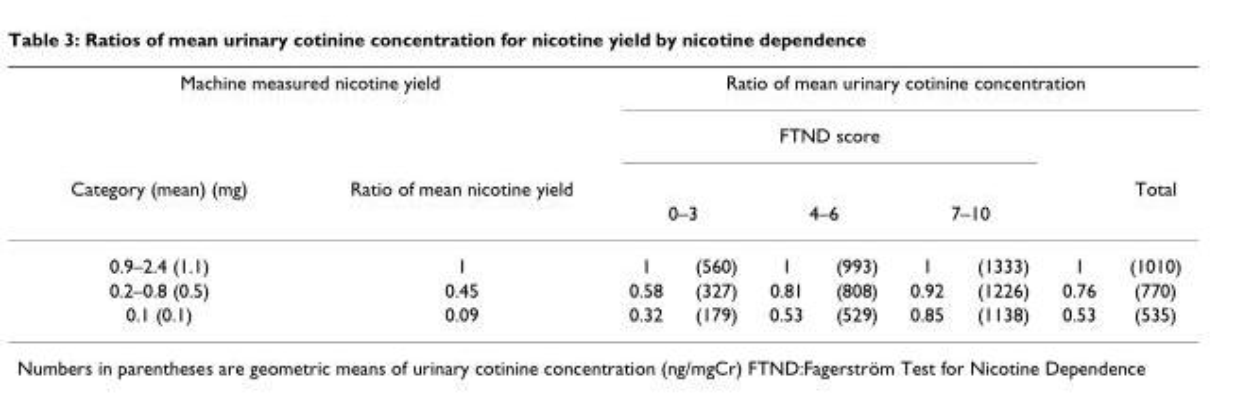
<table><thead><tr><td colspan="2">Machine measured nicotine yield</td><td colspan="8">Ratio of mean urinary cotinine concentration</td></tr><tr><td rowspan="3">Category (mean) (mg)</td><td rowspan="3">Ratio of mean nicotine yield</td><td colspan="6">FTND score</td><td rowspan="3"></td><td rowspan="3">Total</td></tr><tr><td></td><td></td><td></td><td></td><td></td><td></td></tr><tr><td colspan="2">0–3</td><td colspan="2">4–6</td><td colspan="2">7–10</td></tr></thead><tbody><tr><td>0.9–2.4 (1.1)</td><td>1</td><td>1</td><td>(560)</td><td>1</td><td>(993)</td><td>1</td><td>(1333)</td><td>1</td><td>(1010)</td></tr><tr><td>0.2–0.8 (0.5)</td><td>0.45</td><td>0.58</td><td>(327)</td><td>0.81</td><td>(808)</td><td>0.92</td><td>(1226)</td><td>0.76</td><td>(770)</td></tr><tr><td>0.1 (0.1)</td><td>0.09</td><td>0.32</td><td>(179)</td><td>0.53</td><td>(529)</td><td>0.85</td><td>(1138)</td><td>0.53</td><td>(535)</td></tr></tbody></table>